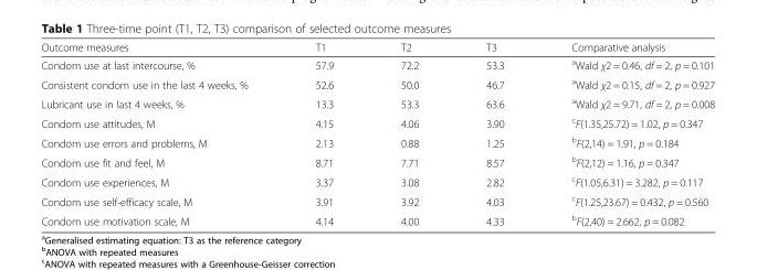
<table><thead><tr><td>Outcome measures</td><td>T1</td><td>T2</td><td>T3</td><td>Comparative analysis</td></tr></thead><tbody><tr><td>Condom use at last intercourse, %</td><td>57.9</td><td>72.2</td><td>53.3</td><td><sup>a</sup>Wald χ2 = 0.46, df = 2, p = 0.101</td></tr><tr><td>Consistent condom use in the last 4 weeks, %</td><td>52.6</td><td>50.0</td><td>46.7</td><td><sup>a</sup>Wald χ2 = 0.15, df = 2, p = 0.927</td></tr><tr><td>Lubricant use in last 4 weeks, %</td><td>13.3</td><td>53.3</td><td>63.6</td><td><sup>a</sup>Wald χ2 = 9.71, df = 2, p = 0.008</td></tr><tr><td>Condom use attitudes, M</td><td>4.15</td><td>4.06</td><td>3.90</td><td><sup>c</sup>F(1.35,25.72) = 1.02, p = 0.347</td></tr><tr><td>Condom use errors and problems, M</td><td>2.13</td><td>0.88</td><td>1.25</td><td><sup>b</sup>F(2,14) = 1.91, p = 0.184</td></tr><tr><td>Condom use fit and feel, M</td><td>8.71</td><td>7.71</td><td>8.57</td><td><sup>b</sup>F(2,12) = 1.16, p = 0.347</td></tr><tr><td>Condom use experiences, M</td><td>3.37</td><td>3.08</td><td>2.82</td><td><sup>c</sup>F(1.05,6.31) = 3.282, p = 0.117</td></tr><tr><td>Condom use self-efficacy scale, M</td><td>3.91</td><td>3.92</td><td>4.03</td><td><sup>c</sup>F(1.25,23.67) = 0.432, p = 0.560</td></tr><tr><td>Condom use motivation scale, M</td><td>4.14</td><td>4.00</td><td>4.33</td><td><sup>b</sup>F(2,40) = 2.662, p = 0.082</td></tr></tbody></table>